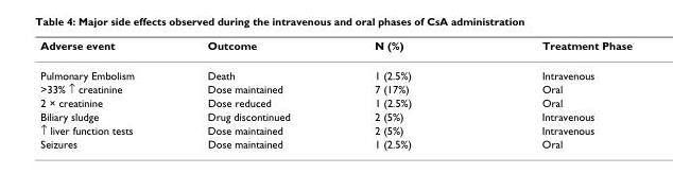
<table><thead><tr><td>Adverse event</td><td>Outcome</td><td>N (%)</td><td>Treatment Phase</td></tr></thead><tbody><tr><td>Pulmonary Embolism</td><td>Death</td><td>1 (2.5%)</td><td>Intravenous</td></tr><tr><td>&gt;33% ↑ creatinine</td><td>Dose maintained</td><td>7 (17%)</td><td>Oral</td></tr><tr><td>2 × creatinine</td><td>Dose reduced</td><td>1 (2.5%)</td><td>Oral</td></tr><tr><td>Biliary sludge</td><td>Drug discontinued</td><td>2 (5%)</td><td>Intravenous</td></tr><tr><td>↑ liver function tests</td><td>Dose maintained</td><td>2 (5%)</td><td>Intravenous</td></tr><tr><td>Seizures</td><td>Dose maintained</td><td>1 (2.5%)</td><td>Oral</td></tr></tbody></table>